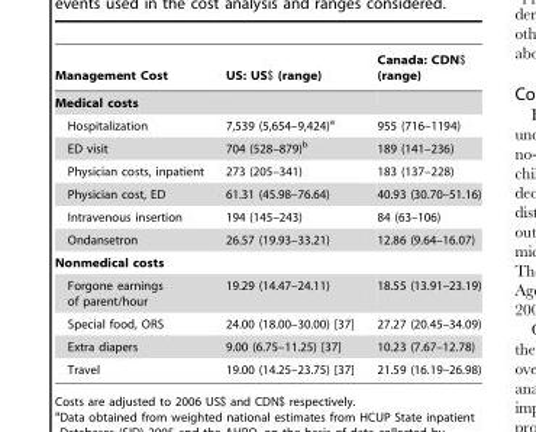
<table><thead><tr><td>Management Cost</td><td>US: US$ (range)</td><td>Canada: CDN$ (range)</td></tr></thead><tbody><tr><td colspan="3">Medical costs</td></tr><tr><td>Hospitalization</td><td>7,539 (5,654–9,424)<sup>a</sup></td><td>955 (716–1194)</td></tr><tr><td>ED visit</td><td>704 (528–879)<sup>b</sup></td><td>189 (141–236)</td></tr><tr><td>Physician costs, inpatient</td><td>273 (205–341)</td><td>183 (137–228)</td></tr><tr><td>Physician cost, ED</td><td>61.31 (45.98–76.64)</td><td>40.93 (30.70–51.16)</td></tr><tr><td>Intravenous insertion</td><td>194 (145–243)</td><td>84 (63–106)</td></tr><tr><td>Ondansetron</td><td>26.57 (19.93–33.21)</td><td>12.86 (9.64–16.07)</td></tr><tr><td colspan="3">Nonmedical costs</td></tr><tr><td>Forgone earnings of parent/hour</td><td>19.29 (14.47–24.11)</td><td>18.55 (13.91–23.19)</td></tr><tr><td>Special food, ORS</td><td>24.00 (18.00–30.00) [37]</td><td>27.27 (20.45–34.09)</td></tr><tr><td>Extra diapers</td><td>9.00 (6.75–11.25) [37]</td><td>10.23 (7.67–12.78)</td></tr><tr><td>Travel</td><td>19.00 (14.25–23.75) [37]</td><td>21.59 (16.19–26.98)</td></tr></tbody></table>